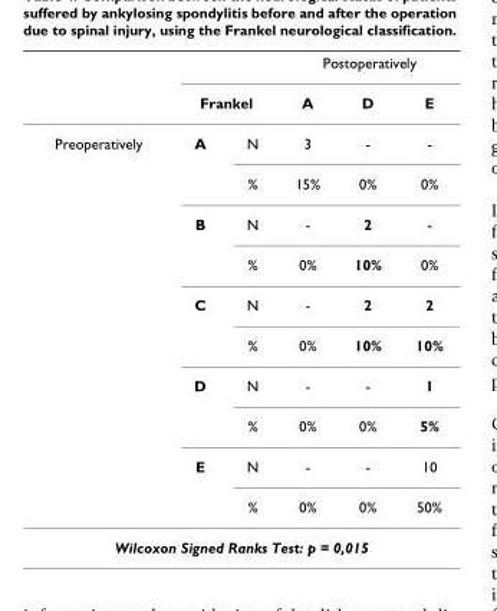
<table><thead><tr><td rowspan="2"></td><td></td><td></td><td colspan="3">Postoperatively</td></tr><tr><td colspan="2">Frankel</td><td>A</td><td>D</td><td>E</td></tr></thead><tbody><tr><td rowspan="10">Preoperatively</td><td>A</td><td>N</td><td>3</td><td>-</td><td>-</td></tr><tr><td></td><td>%</td><td>15%</td><td>0%</td><td>0%</td></tr><tr><td>B</td><td>N</td><td>-</td><td>2</td><td>-</td></tr><tr><td></td><td>%</td><td>0%</td><td>10%</td><td>0%</td></tr><tr><td>C</td><td>N</td><td>-</td><td>2</td><td>2</td></tr><tr><td></td><td>%</td><td>0%</td><td>10%</td><td>10%</td></tr><tr><td>D</td><td>N</td><td>-</td><td>-</td><td>1</td></tr><tr><td></td><td>%</td><td>0%</td><td>0%</td><td>5%</td></tr><tr><td>E</td><td>N</td><td>-</td><td>-</td><td>10</td></tr><tr><td></td><td>%</td><td>0%</td><td>0%</td><td>50%</td></tr><tr><td colspan="6">Wilcoxon Signed Ranks Test: p = 0,015</td></tr></tbody></table>